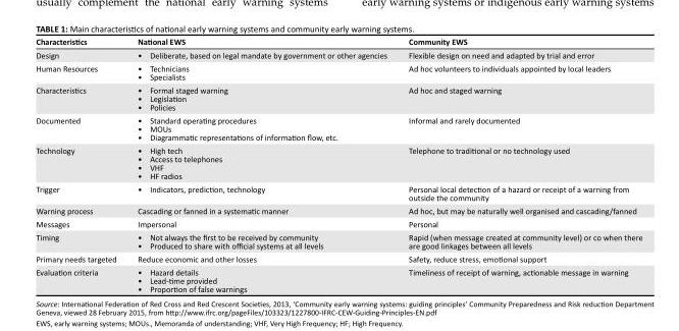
<table><thead><tr><td>Characteristics</td><td>National EWS</td><td>Community EWS</td></tr></thead><tbody><tr><td>Design</td><td>• Deliberate, based on legal mandate by government or other agencies</td><td>Flexible design on need and adapted by trial and error</td></tr><tr><td>Human Resources</td><td>• Technicians • Specialists</td><td>Ad hoc volunteers to individuals appointed by local leaders</td></tr><tr><td>Characteristics</td><td>• Formal staged warning • Legislation • Policies</td><td>Ad hoc and staged warning</td></tr><tr><td>Documented</td><td>• Standard operating procedures • MOUs • Diagrammatic representations of information flow, etc.</td><td>Informal and rarely documented</td></tr><tr><td>Technology</td><td>• High tech • Access to telephones • VHF • HF radios</td><td>Telephone to traditional or no technology used</td></tr><tr><td>Trigger</td><td>• Indicators, prediction, technology</td><td>Personal local detection of a hazard or receipt of a warning from outside the community</td></tr><tr><td>Warning process</td><td>Cascading or fanned in a systematic manner</td><td>Ad hoc, but may be naturally well organised and cascading/fanned</td></tr><tr><td>Messages</td><td>Impersonal</td><td>Personal</td></tr><tr><td>Timing</td><td>• Not always the first to be received by community • Produced to share with official systems at all levels</td><td>Rapid (when message created at community level) or co when there are good linkages between all levels</td></tr><tr><td>Primary needs targeted</td><td>Reduce economic and other losses</td><td>Safety, reduce stress, emotional support</td></tr><tr><td>Evaluation criteria</td><td>• Hazard details • Lead-time provided • Proportion of false warnings</td><td>Timeliness of receipt of warning, actionable message in warning</td></tr></tbody></table>